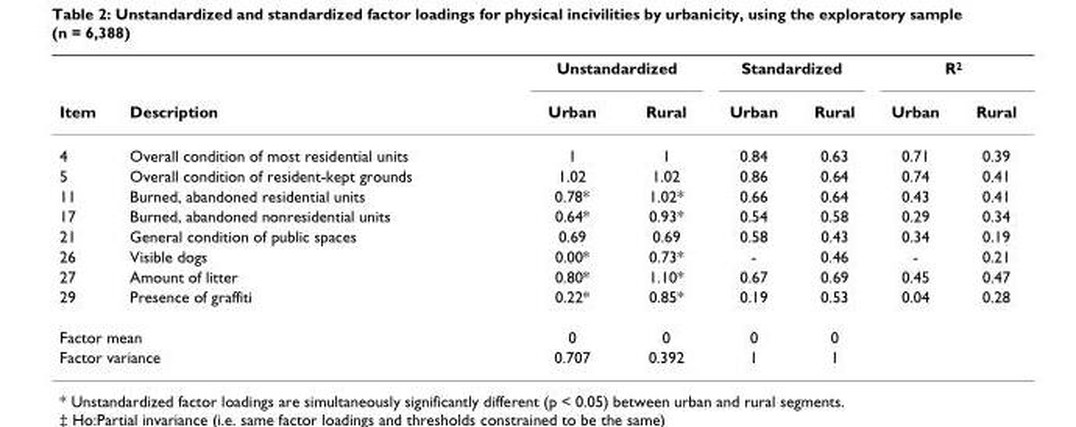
<table><thead><tr><td rowspan="2">Item</td><td rowspan="2">Description</td><td colspan="2">Unstandardized</td><td colspan="2">Standardized</td><td colspan="2">R<sup>2</sup></td></tr><tr><td>Urban</td><td>Rural</td><td>Urban</td><td>Rural</td><td>Urban</td><td>Rural</td></tr></thead><tbody><tr><td>4</td><td>Overall condition of most residential units</td><td>1</td><td>1</td><td>0.84</td><td>0.63</td><td>0.71</td><td>0.39</td></tr><tr><td>5</td><td>Overall condition of resident-kept grounds</td><td>1.02</td><td>1.02</td><td>0.86</td><td>0.64</td><td>0.74</td><td>0.41</td></tr><tr><td>11</td><td>Burned, abandoned residential units</td><td>0.78*</td><td>1.02*</td><td>0.66</td><td>0.64</td><td>0.43</td><td>0.41</td></tr><tr><td>17</td><td>Burned, abandoned nonresidential units</td><td>0.64*</td><td>0.93*</td><td>0.54</td><td>0.58</td><td>0.29</td><td>0.34</td></tr><tr><td>21</td><td>General condition of public spaces</td><td>0.69</td><td>0.69</td><td>0.58</td><td>0.43</td><td>0.34</td><td>0.19</td></tr><tr><td>26</td><td>Visible dogs</td><td>0.00*</td><td>0.73*</td><td>-</td><td>0.46</td><td>-</td><td>0.21</td></tr><tr><td>27</td><td>Amount of litter</td><td>0.80*</td><td>1.10*</td><td>0.67</td><td>0.69</td><td>0.45</td><td>0.47</td></tr><tr><td>29</td><td>Presence of graffiti</td><td>0.22*</td><td>0.85*</td><td>0.19</td><td>0.53</td><td>0.04</td><td>0.28</td></tr><tr><td colspan="2">Factor mean</td><td>0</td><td>0</td><td>0</td><td>0</td><td></td><td></td></tr><tr><td colspan="2">Factor variance</td><td>0.707</td><td>0.392</td><td>1</td><td>1</td><td></td><td></td></tr></tbody></table>